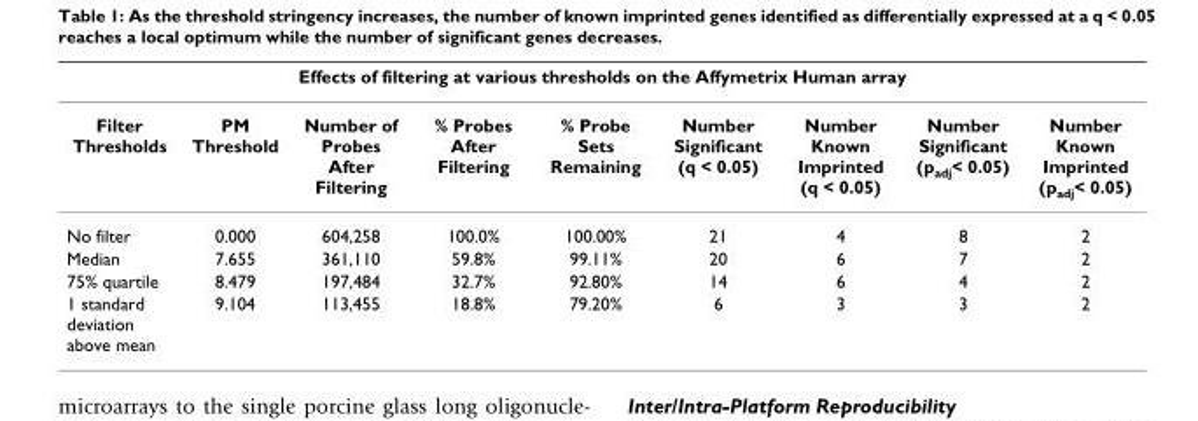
<table><thead><tr><td colspan="9">Effects of filtering at various thresholds on the Affymetrix Human array</td></tr><tr><td>Filter Thresholds</td><td>PM Threshold</td><td>Number of Probes After Filtering</td><td>% Probes After Filtering</td><td>% Probe Sets Remaining</td><td>Number Significant (q &lt; 0.05)</td><td>Number Known Imprinted (q &lt; 0.05)</td><td>Number Significant (padj&lt; 0.05)</td><td>Number Known Imprinted (padj&lt; 0.05)</td></tr></thead><tbody><tr><td>No filter</td><td>0.000</td><td>604,258</td><td>100.0%</td><td>100.00%</td><td>21</td><td>4</td><td>8</td><td>2</td></tr><tr><td>Median</td><td>7.655</td><td>361,110</td><td>59.8%</td><td>99.11%</td><td>20</td><td>6</td><td>7</td><td>2</td></tr><tr><td>75% quartile</td><td>8.479</td><td>197,484</td><td>32.7%</td><td>92.80%</td><td>14</td><td>6</td><td>4</td><td>2</td></tr><tr><td>1 standard deviation above mean</td><td>9.104</td><td>113,455</td><td>18.8%</td><td>79.20%</td><td>6</td><td>3</td><td>3</td><td>2</td></tr></tbody></table>